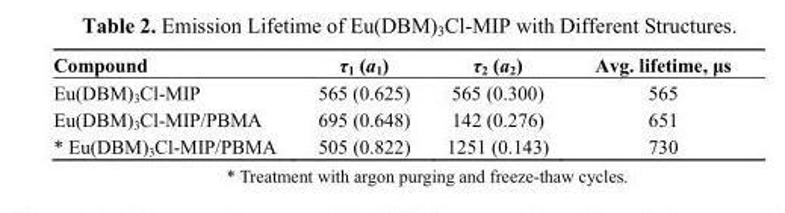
<table><thead><tr><td>Compound</td><td>τ<sub>1</sub> (a<sub>1</sub>)</td><td>τ<sub>2</sub> (a<sub>2</sub>)</td><td>Avg. lifetime, μs</td></tr></thead><tbody><tr><td>Eu(DBM)<sub>3</sub>Cl-MIP</td><td>565 (0.625)</td><td>565 (0.300)</td><td>565</td></tr><tr><td>Eu(DBM)<sub>3</sub>Cl-MIP/PBMA</td><td>695 (0.648)</td><td>142 (0.276)</td><td>651</td></tr><tr><td>* Eu(DBM)<sub>3</sub>Cl-MIP/PBMA</td><td>505 (0.822)</td><td>1251 (0.143)</td><td>730</td></tr></tbody></table>